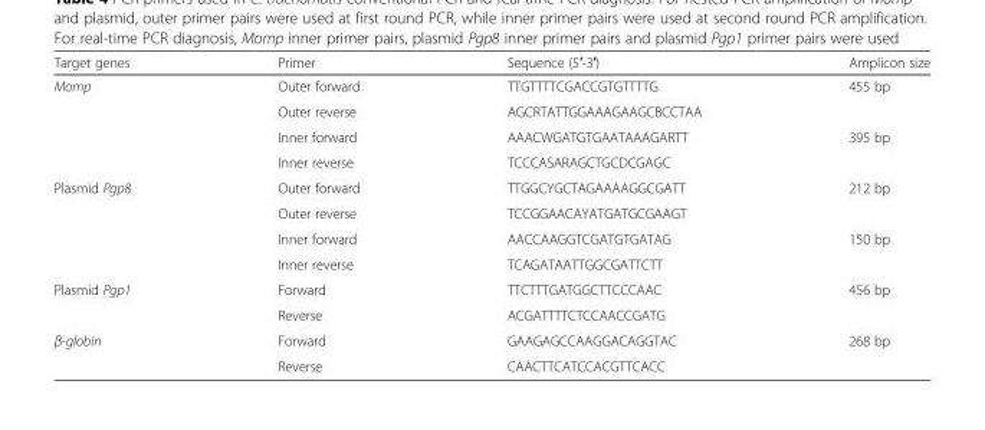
<table><thead><tr><td>Target genes</td><td>Primer</td><td>Sequence (5′-3′)</td><td>Amplicon size</td></tr></thead><tbody><tr><td rowspan="4">Momp</td><td>Outer forward</td><td>TTGTTTTCGACCGTGTTTTG</td><td>455 bp</td></tr><tr><td>Outer reverse</td><td>AGCRTATTGGAAAGAAGCBCCTAA</td><td></td></tr><tr><td>Inner forward</td><td>AAACWGATGTGAATAAAGARTT</td><td>395 bp</td></tr><tr><td>Inner reverse</td><td>TCCCASARAGCTGCDCGAGC</td><td></td></tr><tr><td rowspan="4">Plasmid Pgp8</td><td>Outer forward</td><td>TTGGCYGCTAGAAAAGGCGATT</td><td>212 bp</td></tr><tr><td>Outer reverse</td><td>TCCGGAACAYATGATGCGAAGT</td><td></td></tr><tr><td>Inner forward</td><td>AACCAAGGTCGATGTGATAG</td><td>150 bp</td></tr><tr><td>Inner reverse</td><td>TCAGATAATTGGCGATTCTT</td><td></td></tr><tr><td rowspan="2">Plasmid Pgp1</td><td>Forward</td><td>TTCTTTGATGGCTTCCCAAC</td><td>456 bp</td></tr><tr><td>Reverse</td><td>ACGATTTTCTCCAACCGATG</td><td></td></tr><tr><td rowspan="2">β-globin</td><td>Forward</td><td>GAAGAGCCAAGGACAGGTAC</td><td>268 bp</td></tr><tr><td>Reverse</td><td>CAACTTCATCCACGTTCACC</td><td></td></tr></tbody></table>